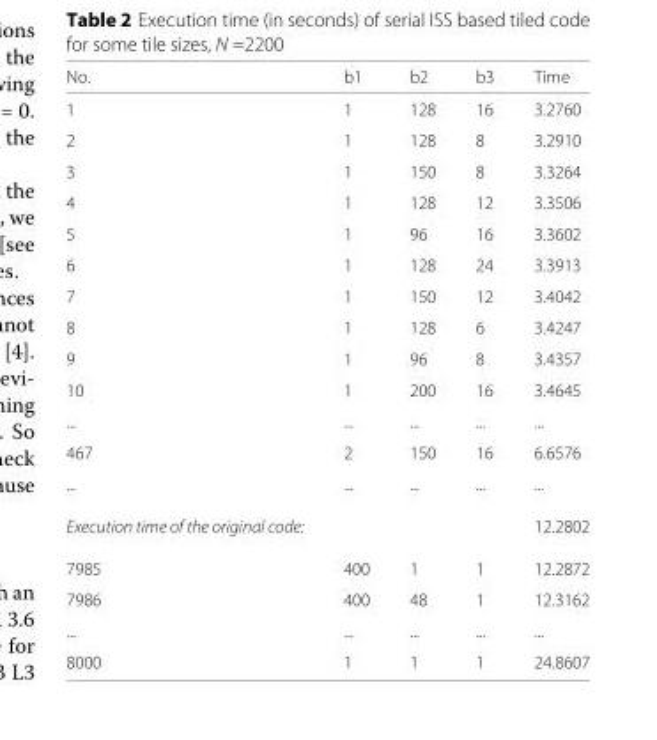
<table><thead><tr><td>No.</td><td>b1</td><td>b2</td><td>b3</td><td>Time</td></tr></thead><tbody><tr><td>1</td><td>1</td><td>128</td><td>16</td><td>3.2760</td></tr><tr><td>2</td><td>1</td><td>128</td><td>8</td><td>3.2910</td></tr><tr><td>3</td><td>1</td><td>150</td><td>8</td><td>3.3264</td></tr><tr><td>4</td><td>1</td><td>128</td><td>12</td><td>3.3506</td></tr><tr><td>5</td><td>1</td><td>96</td><td>16</td><td>3.3602</td></tr><tr><td>6</td><td>1</td><td>128</td><td>24</td><td>3.3913</td></tr><tr><td>7</td><td>1</td><td>150</td><td>12</td><td>3.4042</td></tr><tr><td>8</td><td>1</td><td>128</td><td>6</td><td>3.4247</td></tr><tr><td>9</td><td>1</td><td>96</td><td>8</td><td>3.4357</td></tr><tr><td>10</td><td>1</td><td>200</td><td>16</td><td>3.4645</td></tr><tr><td>...</td><td>...</td><td>...</td><td>...</td><td>...</td></tr><tr><td>467</td><td>2</td><td>150</td><td>16</td><td>6.6576</td></tr><tr><td>...</td><td>...</td><td>...</td><td>...</td><td>...</td></tr><tr><td>Execution time of the original code:</td><td></td><td></td><td></td><td>12.2802</td></tr><tr><td>7985</td><td>400</td><td>1</td><td>1</td><td>12.2872</td></tr><tr><td>7986</td><td>400</td><td>48</td><td>1</td><td>12.3162</td></tr><tr><td>...</td><td>...</td><td>...</td><td>...</td><td>...</td></tr><tr><td>8000</td><td>1</td><td>1</td><td>1</td><td>24.8607</td></tr></tbody></table>